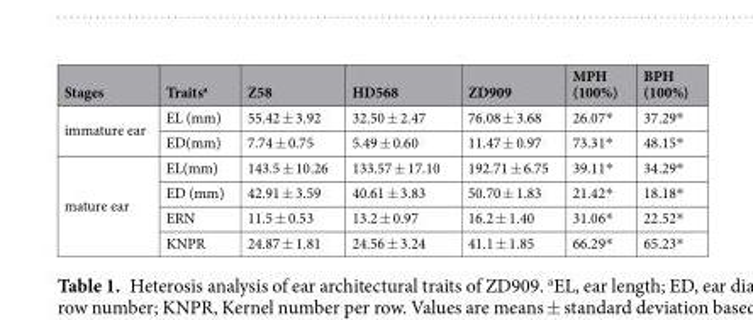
<table><thead><tr><td>Stages</td><td>Traits<sup>a</sup></td><td>Z58</td><td>HD568</td><td>ZD909</td><td>MPH (100%)</td><td>BPH (100%)</td></tr></thead><tbody><tr><td rowspan="2">immature ear</td><td>EL (mm)</td><td>55.42 ± 3.92</td><td>32.50 ± 2.47</td><td>76.08 ± 3.68</td><td>26.07*</td><td>37.29*</td></tr><tr><td>ED(mm)</td><td>7.74 ± 0.75</td><td>5.49 ± 0.60</td><td>11.47 ± 0.97</td><td>73.31*</td><td>48.15*</td></tr><tr><td rowspan="4">mature ear</td><td>EL(mm)</td><td>143.5 ± 10.26</td><td>133.57 ± 17.10</td><td>192.71 ± 6.75</td><td>39.11*</td><td>34.29*</td></tr><tr><td>ED (mm)</td><td>42.91 ± 3.59</td><td>40.61 ± 3.83</td><td>50.70 ± 1.83</td><td>21.42*</td><td>18.18*</td></tr><tr><td>ERN</td><td>11.5 ± 0.53</td><td>13.2 ± 0.97</td><td>16.2 ± 1.40</td><td>31.06*</td><td>22.52*</td></tr><tr><td>KNPR</td><td>24.87 ± 1.81</td><td>24.56 ± 3.24</td><td>41.1 ± 1.85</td><td>66.29*</td><td>65.23*</td></tr></tbody></table>